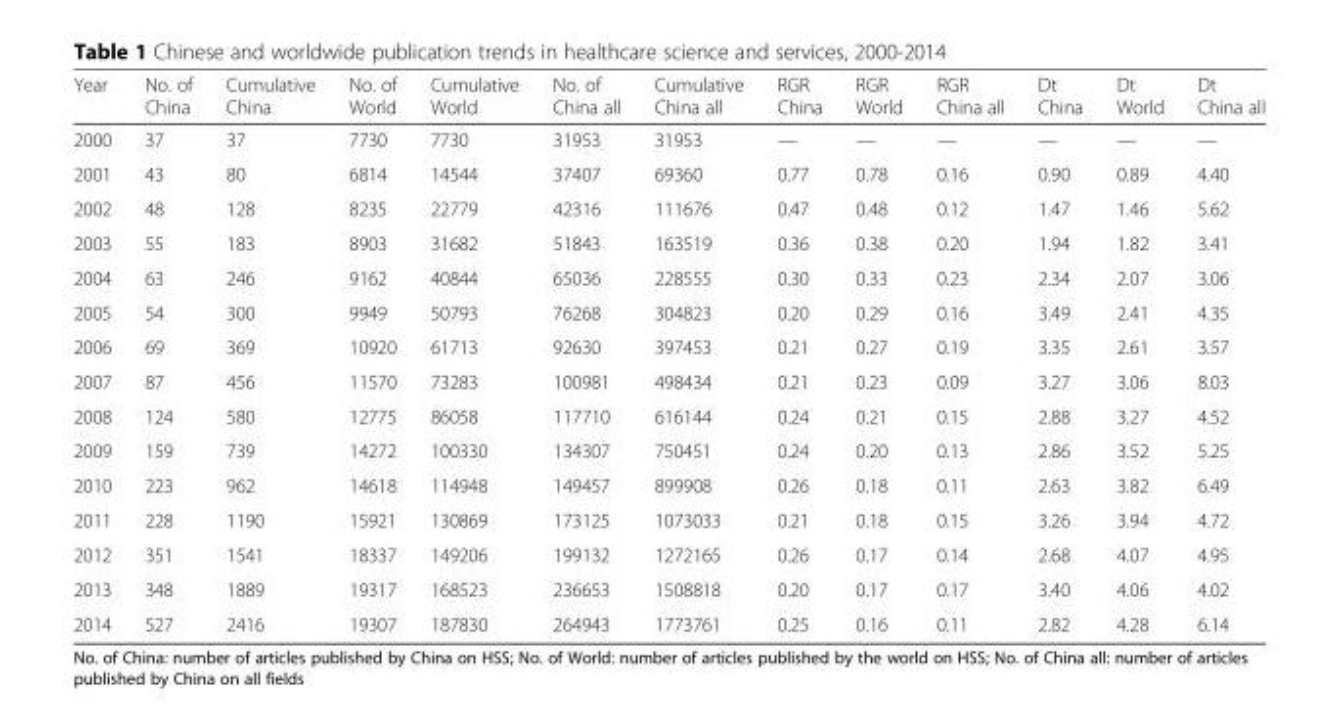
<table><thead><tr><td>Year</td><td>No. of China</td><td>Cumulative China</td><td>No. of World</td><td>Cumulative World</td><td>No. of China all</td><td>Cumulative China all</td><td>RGR China</td><td>RGR World</td><td>RGR China all</td><td>Dt China</td><td>Dt World</td><td>Dt China all</td></tr></thead><tbody><tr><td>2000</td><td>37</td><td>37</td><td>7730</td><td>7730</td><td>31953</td><td>31953</td><td>—</td><td>—</td><td>—</td><td>—</td><td>—</td><td>—</td></tr><tr><td>2001</td><td>43</td><td>80</td><td>6814</td><td>14544</td><td>37407</td><td>69360</td><td>0.77</td><td>0.78</td><td>0.16</td><td>0.90</td><td>0.89</td><td>4.40</td></tr><tr><td>2002</td><td>48</td><td>128</td><td>8235</td><td>22779</td><td>42316</td><td>111676</td><td>0.47</td><td>0.48</td><td>0.12</td><td>1.47</td><td>1.46</td><td>5.62</td></tr><tr><td>2003</td><td>55</td><td>183</td><td>8903</td><td>31682</td><td>51843</td><td>163519</td><td>0.36</td><td>0.38</td><td>0.20</td><td>1.94</td><td>1.82</td><td>3.41</td></tr><tr><td>2004</td><td>63</td><td>246</td><td>9162</td><td>40844</td><td>65036</td><td>228555</td><td>0.30</td><td>0.33</td><td>0.23</td><td>2.34</td><td>2.07</td><td>3.06</td></tr><tr><td>2005</td><td>54</td><td>300</td><td>9949</td><td>50793</td><td>76268</td><td>304823</td><td>0.20</td><td>0.29</td><td>0.16</td><td>3.49</td><td>2.41</td><td>4.35</td></tr><tr><td>2006</td><td>69</td><td>369</td><td>10920</td><td>61713</td><td>92630</td><td>397453</td><td>0.21</td><td>0.27</td><td>0.19</td><td>3.35</td><td>2.61</td><td>3.57</td></tr><tr><td>2007</td><td>87</td><td>456</td><td>11570</td><td>73283</td><td>100981</td><td>498434</td><td>0.21</td><td>0.23</td><td>0.09</td><td>3.27</td><td>3.06</td><td>8.03</td></tr><tr><td>2008</td><td>124</td><td>580</td><td>12775</td><td>86058</td><td>117710</td><td>616144</td><td>0.24</td><td>0.21</td><td>0.15</td><td>2.88</td><td>3.27</td><td>4.52</td></tr><tr><td>2009</td><td>159</td><td>739</td><td>14272</td><td>100330</td><td>134307</td><td>750451</td><td>0.24</td><td>0.20</td><td>0.13</td><td>2.86</td><td>3.52</td><td>5.25</td></tr><tr><td>2010</td><td>223</td><td>962</td><td>14618</td><td>114948</td><td>149457</td><td>899908</td><td>0.26</td><td>0.18</td><td>0.11</td><td>2.63</td><td>3.82</td><td>6.49</td></tr><tr><td>2011</td><td>228</td><td>1190</td><td>15921</td><td>130869</td><td>173125</td><td>1073033</td><td>0.21</td><td>0.18</td><td>0.15</td><td>3.26</td><td>3.94</td><td>4.72</td></tr><tr><td>2012</td><td>351</td><td>1541</td><td>18337</td><td>149206</td><td>199132</td><td>1272165</td><td>0.26</td><td>0.17</td><td>0.14</td><td>2.68</td><td>4.07</td><td>4.95</td></tr><tr><td>2013</td><td>348</td><td>1889</td><td>19317</td><td>168523</td><td>236653</td><td>1508818</td><td>0.20</td><td>0.17</td><td>0.17</td><td>3.40</td><td>4.06</td><td>4.02</td></tr><tr><td>2014</td><td>527</td><td>2416</td><td>19307</td><td>187830</td><td>264943</td><td>1773761</td><td>0.25</td><td>0.16</td><td>0.11</td><td>2.82</td><td>4.28</td><td>6.14</td></tr></tbody></table>